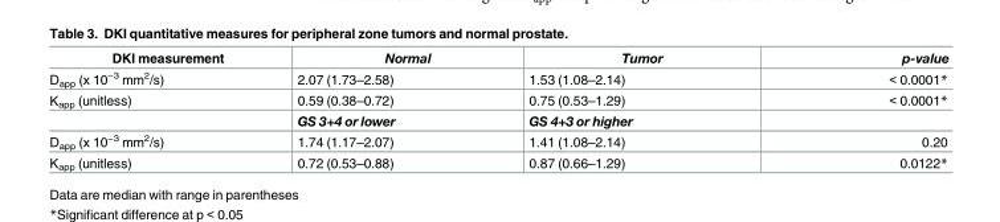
<table><thead><tr><td>DKI measurement</td><td>Normal</td><td>Tumor</td><td>p-value</td></tr></thead><tbody><tr><td>D<sub>app</sub> (x 10<sup>−3</sup> mm<sup>2</sup>/s)</td><td>2.07 (1.73–2.58)</td><td>1.53 (1.08–2.14)</td><td>&lt; 0.0001*</td></tr><tr><td rowspan="2">K<sub>app</sub> (unitless)</td><td>0.59 (0.38–0.72)</td><td>0.75 (0.53–1.29)</td><td>&lt; 0.0001*</td></tr><tr><td>GS 3+4 or lower</td><td>GS 4+3 or higher</td><td></td></tr><tr><td>D<sub>app</sub> (x 10<sup>−3</sup> mm<sup>2</sup>/s)</td><td>1.74 (1.17–2.07)</td><td>1.41 (1.08–2.14)</td><td>0.20</td></tr><tr><td>K<sub>app</sub> (unitless)</td><td>0.72 (0.53–0.88)</td><td>0.87 (0.66–1.29)</td><td>0.0122*</td></tr></tbody></table>